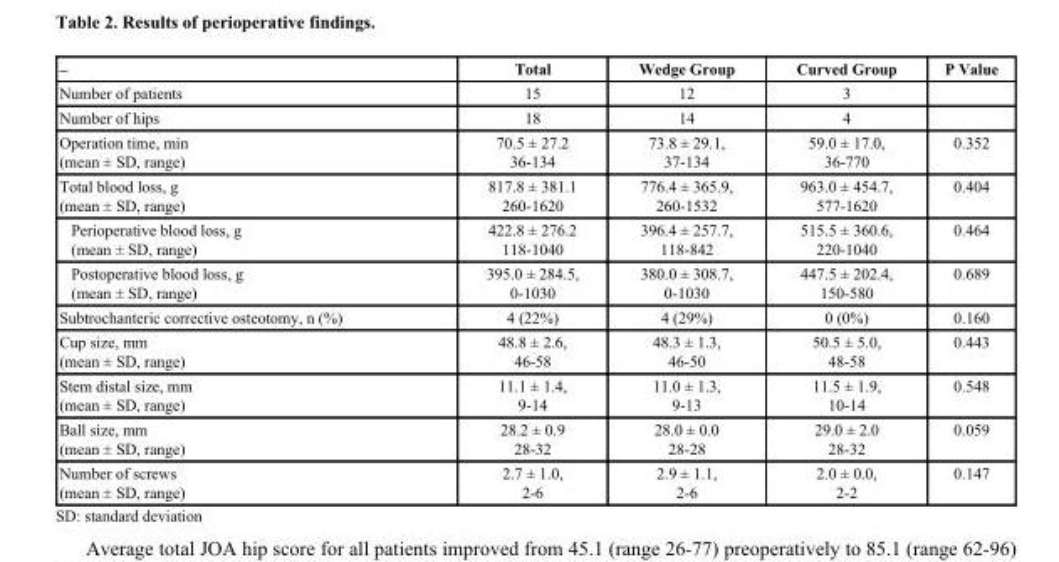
<table><thead><tr><td>–</td><td>Total</td><td>Wedge Group</td><td>Curved Group</td><td>P Value</td></tr></thead><tbody><tr><td>Number of patients</td><td>15</td><td>12</td><td>3</td><td></td></tr><tr><td>Number of hips</td><td>18</td><td>14</td><td>4</td><td></td></tr><tr><td>Operation time, min (mean ± SD, range)</td><td>70.5 ± 27.2 36-134</td><td>73.8 ± 29.1, 37-134</td><td>59.0 ± 17.0, 36-770</td><td>0.352</td></tr><tr><td>Total blood loss, g (mean ± SD, range)</td><td>817.8 ± 381.1 260-1620</td><td>776.4 ± 365.9, 260-1532</td><td>963.0 ± 454.7, 577-1620</td><td>0.404</td></tr><tr><td>Perioperative blood loss, g (mean ± SD, range)</td><td>422.8 ± 276.2 118-1040</td><td>396.4 ± 257.7, 118-842</td><td>515.5 ± 360.6, 220-1040</td><td>0.464</td></tr><tr><td>Postoperative blood loss, g (mean ± SD, range)</td><td>395.0 ± 284.5, 0-1030</td><td>380.0 ± 308.7, 0-1030</td><td>447.5 ± 202.4, 150-580</td><td>0.689</td></tr><tr><td>Subtrochanteric corrective osteotomy, n (%)</td><td>4 (22%)</td><td>4 (29%)</td><td>0 (0%)</td><td>0.160</td></tr><tr><td>Cup size, mm (mean ± SD, range)</td><td>48.8 ± 2.6, 46-58</td><td>48.3 ± 1.3, 46-50</td><td>50.5 ± 5.0, 48-58</td><td>0.443</td></tr><tr><td>Stem distal size, mm (mean ± SD, range)</td><td>11.1 ± 1.4, 9-14</td><td>11.0 ± 1.3, 9-13</td><td>11.5 ± 1.9, 10-14</td><td>0.548</td></tr><tr><td>Ball size, mm (mean ± SD, range)</td><td>28.2 ± 0.9 28-32</td><td>28.0 ± 0.0 28-28</td><td>29.0 ± 2.0 28-32</td><td>0.059</td></tr><tr><td>Number of screws (mean ± SD, range)</td><td>2.7 ± 1.0, 2-6</td><td>2.9 ± 1.1, 2-6</td><td>2.0 ± 0.0, 2-2</td><td>0.147</td></tr></tbody></table>